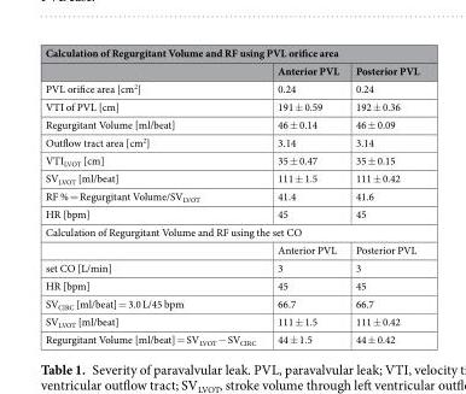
<table><thead><tr><td colspan="3">Calculation of Regurgitant Volume and RF using PVL orifice area</td></tr><tr><td></td><td>Anterior PVL</td><td>Posterior PVL</td></tr></thead><tbody><tr><td>PVL orifice area [cm<sup>2</sup>]</td><td>0.24</td><td>0.24</td></tr><tr><td>VTI of PVL [cm]</td><td>191 ± 0.59</td><td>192 ± 0.36</td></tr><tr><td>Regurgitant Volume [ml/beat]</td><td>46 ± 0.14</td><td>46 ± 0.09</td></tr><tr><td>Outflow tract area [cm<sup>2</sup>]</td><td>3.14</td><td>3.14</td></tr><tr><td>VTI<sub>LVOT</sub> [cm]</td><td>35 ± 0.47</td><td>35 ± 0.15</td></tr><tr><td>SV<sub>LVOT</sub> [ml/beat]</td><td>111 ± 1.5</td><td>111 ± 0.42</td></tr><tr><td>RF % = Regurgitant Volume/SV<sub>LVOT</sub></td><td>41.4</td><td>41.6</td></tr><tr><td>HR [bpm]</td><td>45</td><td>45</td></tr><tr><td colspan="3">Calculation of Regurgitant Volume and RF using the set CO</td></tr><tr><td></td><td>Anterior PVL</td><td>Posterior PVL</td></tr><tr><td>set CO [L/min]</td><td>3</td><td>3</td></tr><tr><td>HR [bpm]</td><td>45</td><td>45</td></tr><tr><td>SV<sub>CIRC</sub> [ml/beat] = 3.0 L/45 bpm</td><td>66.7</td><td>66.7</td></tr><tr><td>SV<sub>LVOT</sub> [ml/beat]</td><td>111 ± 1.5</td><td>111 ± 0.42</td></tr><tr><td>Regurgitant Volume [ml/beat] = SV<sub>LVOT</sub> − SV<sub>CIRC</sub></td><td>44 ± 1.5</td><td>44 ± 0.42</td></tr></tbody></table>